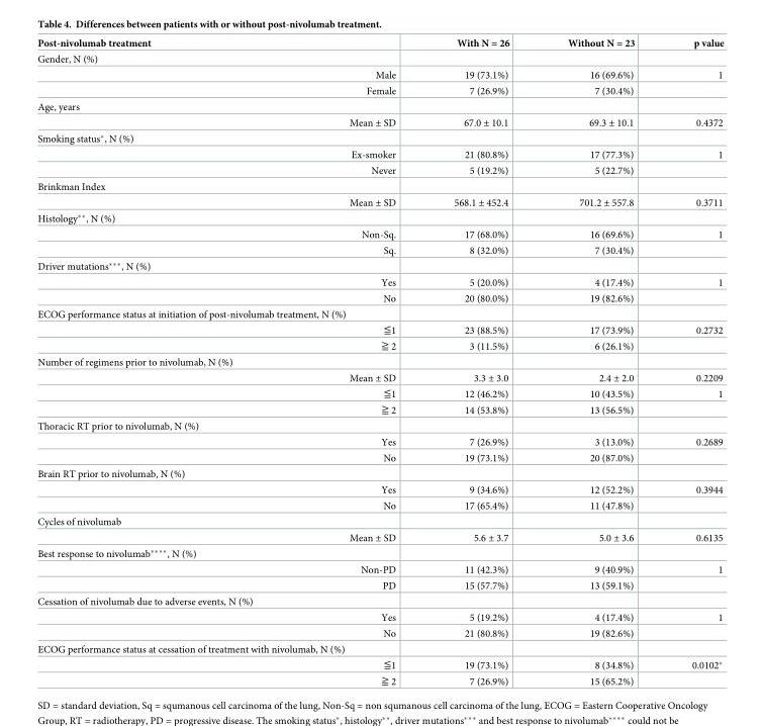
<table><thead><tr><td>Post-nivolumab treatment</td><td>With N = 26</td><td>Without N = 23</td><td>p value</td></tr></thead><tbody><tr><td colspan="4">Gender, N (%)</td></tr><tr><td>Male</td><td>19 (73.1%)</td><td>16 (69.6%)</td><td>1</td></tr><tr><td>Female</td><td>7 (26.9%)</td><td>7 (30.4%)</td><td></td></tr><tr><td colspan="4">Age, years</td></tr><tr><td>Mean ± SD</td><td>67.0 ± 10.1</td><td>69.3 ± 10.1</td><td>0.4372</td></tr><tr><td colspan="4">Smoking status*, N (%)</td></tr><tr><td>Ex-smoker</td><td>21 (80.8%)</td><td>17 (77.3%)</td><td>1</td></tr><tr><td>Never</td><td>5 (19.2%)</td><td>5 (22.7%)</td><td></td></tr><tr><td colspan="4">Brinkman Index</td></tr><tr><td>Mean ± SD</td><td>568.1 ± 452.4</td><td>701.2 ± 557.8</td><td>0.3711</td></tr><tr><td colspan="4">Histology**, N (%)</td></tr><tr><td>Non-Sq.</td><td>17 (68.0%)</td><td>16 (69.6%)</td><td>1</td></tr><tr><td>Sq.</td><td>8 (32.0%)</td><td>7 (30.4%)</td><td></td></tr><tr><td colspan="4">Driver mutations***, N (%)</td></tr><tr><td>Yes</td><td>5 (20.0%)</td><td>4 (17.4%)</td><td>1</td></tr><tr><td>No</td><td>20 (80.0%)</td><td>19 (82.6%)</td><td></td></tr><tr><td colspan="4">ECOG performance status at initiation of post-nivolumab treatment, N (%)</td></tr><tr><td>≦1</td><td>23 (88.5%)</td><td>17 (73.9%)</td><td>0.2732</td></tr><tr><td>≧ 2</td><td>3 (11.5%)</td><td>6 (26.1%)</td><td></td></tr><tr><td colspan="4">Number of regimens prior to nivolumab, N (%)</td></tr><tr><td>Mean ± SD</td><td>3.3 ± 3.0</td><td>2.4 ± 2.0</td><td>0.2209</td></tr><tr><td>≦1</td><td>12 (46.2%)</td><td>10 (43.5%)</td><td>1</td></tr><tr><td>≧ 2</td><td>14 (53.8%)</td><td>13 (56.5%)</td><td></td></tr><tr><td colspan="4">Thoracic RT prior to nivolumab, N (%)</td></tr><tr><td>Yes</td><td>7 (26.9%)</td><td>3 (13.0%)</td><td>0.2689</td></tr><tr><td>No</td><td>19 (73.1%)</td><td>20 (87.0%)</td><td></td></tr><tr><td colspan="4">Brain RT prior to nivolumab, N (%)</td></tr><tr><td>Yes</td><td>9 (34.6%)</td><td>12 (52.2%)</td><td>0.3944</td></tr><tr><td>No</td><td>17 (65.4%)</td><td>11 (47.8%)</td><td></td></tr><tr><td colspan="4">Cycles of nivolumab</td></tr><tr><td>Mean ± SD</td><td>5.6 ± 3.7</td><td>5.0 ± 3.6</td><td>0.6135</td></tr><tr><td colspan="4">Best response to nivolumab****, N (%)</td></tr><tr><td>Non-PD</td><td>11 (42.3%)</td><td>9 (40.9%)</td><td>1</td></tr><tr><td>PD</td><td>15 (57.7%)</td><td>13 (59.1%)</td><td></td></tr><tr><td colspan="4">Cessation of nivolumab due to adverse events, N (%)</td></tr><tr><td>Yes</td><td>5 (19.2%)</td><td>4 (17.4%)</td><td>1</td></tr><tr><td>No</td><td>21 (80.8%)</td><td>19 (82.6%)</td><td></td></tr><tr><td colspan="4">ECOG performance status at cessation of treatment with nivolumab, N (%)</td></tr><tr><td>≦1</td><td>19 (73.1%)</td><td>8 (34.8%)</td><td>0.0102*</td></tr><tr><td>≧ 2</td><td>7 (26.9%)</td><td>15 (65.2%)</td><td></td></tr></tbody></table>